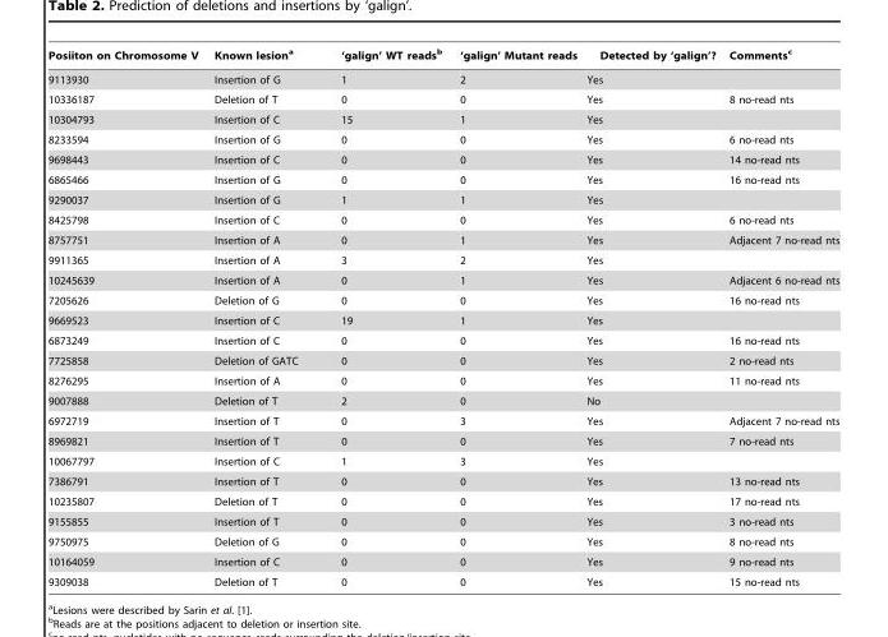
<table><thead><tr><td>Posiiton on Chromosome V</td><td>Known lesion<sup>a</sup></td><td>‘galign’ WT reads<sup>b</sup></td><td>‘galign’ Mutant reads</td><td>Detected by ‘galign’?</td><td>Comments<sup>c</sup></td></tr></thead><tbody><tr><td>9113930</td><td>Insertion of G</td><td>1</td><td>2</td><td>Yes</td><td></td></tr><tr><td>10336187</td><td>Deletion of T</td><td>0</td><td>0</td><td>Yes</td><td>8 no-read nts</td></tr><tr><td>10304793</td><td>Insertion of C</td><td>15</td><td>1</td><td>Yes</td><td></td></tr><tr><td>8233594</td><td>Insertion of G</td><td>0</td><td>0</td><td>Yes</td><td>6 no-read nts</td></tr><tr><td>9698443</td><td>Insertion of C</td><td>0</td><td>0</td><td>Yes</td><td>14 no-read nts</td></tr><tr><td>6865466</td><td>Insertion of G</td><td>0</td><td>0</td><td>Yes</td><td>16 no-read nts</td></tr><tr><td>9290037</td><td>Insertion of G</td><td>1</td><td>1</td><td>Yes</td><td></td></tr><tr><td>8425798</td><td>Insertion of C</td><td>0</td><td>0</td><td>Yes</td><td>6 no-read nts</td></tr><tr><td>8757751</td><td>Insertion of A</td><td>0</td><td>1</td><td>Yes</td><td>Adjacent 7 no-read nts</td></tr><tr><td>9911365</td><td>Insertion of A</td><td>3</td><td>2</td><td>Yes</td><td></td></tr><tr><td>10245639</td><td>Insertion of A</td><td>0</td><td>1</td><td>Yes</td><td>Adjacent 6 no-read nts</td></tr><tr><td>7205626</td><td>Deletion of G</td><td>0</td><td>0</td><td>Yes</td><td>16 no-read nts</td></tr><tr><td>9669523</td><td>Insertion of C</td><td>19</td><td>1</td><td>Yes</td><td></td></tr><tr><td>6873249</td><td>Insertion of C</td><td>0</td><td>0</td><td>Yes</td><td>16 no-read nts</td></tr><tr><td>7725858</td><td>Deletion of GATC</td><td>0</td><td>0</td><td>Yes</td><td>2 no-read nts</td></tr><tr><td>8276295</td><td>Insertion of A</td><td>0</td><td>0</td><td>Yes</td><td>11 no-read nts</td></tr><tr><td>9007888</td><td>Deletion of T</td><td>2</td><td>0</td><td>No</td><td></td></tr><tr><td>6972719</td><td>Insertion of T</td><td>0</td><td>3</td><td>Yes</td><td>Adjacent 7 no-read nts</td></tr><tr><td>8969821</td><td>Insertion of T</td><td>0</td><td>0</td><td>Yes</td><td>7 no-read nts</td></tr><tr><td>10067797</td><td>Insertion of C</td><td>1</td><td>3</td><td>Yes</td><td></td></tr><tr><td>7386791</td><td>Insertion of T</td><td>0</td><td>0</td><td>Yes</td><td>13 no-read nts</td></tr><tr><td>10235807</td><td>Deletion of T</td><td>0</td><td>0</td><td>Yes</td><td>17 no-read nts</td></tr><tr><td>9155855</td><td>Insertion of T</td><td>0</td><td>0</td><td>Yes</td><td>3 no-read nts</td></tr><tr><td>9750975</td><td>Deletion of G</td><td>0</td><td>0</td><td>Yes</td><td>8 no-read nts</td></tr><tr><td>10164059</td><td>Insertion of C</td><td>0</td><td>0</td><td>Yes</td><td>9 no-read nts</td></tr><tr><td>9309038</td><td>Deletion of T</td><td>0</td><td>0</td><td>Yes</td><td>15 no-read nts</td></tr></tbody></table>